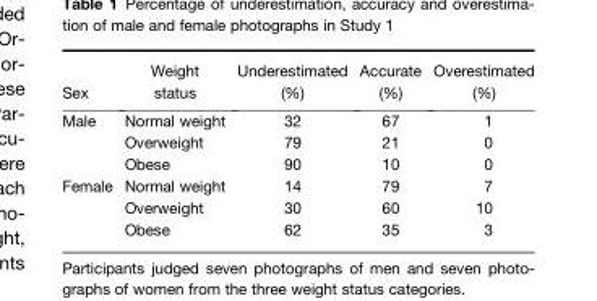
<table><thead><tr><td>Sex</td><td>Weight status</td><td>Underestimated (%)</td><td>Accurate (%)</td><td>Overestimated (%)</td></tr></thead><tbody><tr><td rowspan="3">Male</td><td>Normal weight</td><td>32</td><td>67</td><td>1</td></tr><tr><td>Overweight</td><td>79</td><td>21</td><td>0</td></tr><tr><td>Obese</td><td>90</td><td>10</td><td>0</td></tr><tr><td rowspan="3">Female</td><td>Normal weight</td><td>14</td><td>79</td><td>7</td></tr><tr><td>Overweight</td><td>30</td><td>60</td><td>10</td></tr><tr><td>Obese</td><td>62</td><td>35</td><td>3</td></tr></tbody></table>